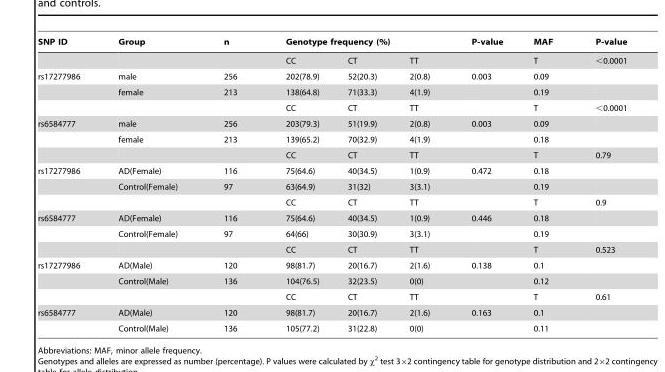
<table><thead><tr><td rowspan="2">SNP ID</td><td rowspan="2">Group</td><td rowspan="2">n</td><td colspan="3">Genotype frequency (%)</td><td rowspan="2">P-value</td><td rowspan="2">MAF T</td><td rowspan="2">P-value &lt;0.0001</td></tr><tr><td>CC</td><td>CT</td><td>TT</td></tr></thead><tbody><tr><td rowspan="3">rs17277986</td><td>male</td><td>256</td><td>202(78.9)</td><td>52(20.3)</td><td>2(0.8)</td><td>0.003</td><td>0.09</td><td></td></tr><tr><td>female</td><td>213</td><td>138(64.8)</td><td>71(33.3)</td><td>4(1.9)</td><td></td><td>0.19</td><td></td></tr><tr><td></td><td></td><td>CC</td><td>CT</td><td>TT</td><td></td><td>T</td><td>&lt;0.0001</td></tr><tr><td rowspan="3">rs6584777</td><td>male</td><td>256</td><td>203(79.3)</td><td>51(19.9)</td><td>2(0.8)</td><td>0.003</td><td>0.09</td><td></td></tr><tr><td>female</td><td>213</td><td>139(65.2)</td><td>70(32.9)</td><td>4(1.9)</td><td></td><td>0.18</td><td></td></tr><tr><td></td><td></td><td>CC</td><td>CT</td><td>TT</td><td></td><td>T</td><td>0.79</td></tr><tr><td rowspan="3">rs17277986</td><td>AD(Female)</td><td>116</td><td>75(64.6)</td><td>40(34.5)</td><td>1(0.9)</td><td>0.472</td><td>0.18</td><td></td></tr><tr><td>Control(Female)</td><td>97</td><td>63(64.9)</td><td>31(32)</td><td>3(3.1)</td><td></td><td>0.19</td><td></td></tr><tr><td></td><td></td><td>CC</td><td>CT</td><td>TT</td><td></td><td>T</td><td>0.9</td></tr><tr><td rowspan="3">rs6584777</td><td>AD(Female)</td><td>116</td><td>75(64.6)</td><td>40(34.5)</td><td>1(0.9)</td><td>0.446</td><td>0.18</td><td></td></tr><tr><td>Control(Female)</td><td>97</td><td>64(66)</td><td>30(30.9)</td><td>3(3.1)</td><td></td><td>0.19</td><td></td></tr><tr><td></td><td></td><td>CC</td><td>CT</td><td>TT</td><td></td><td>T</td><td>0.523</td></tr><tr><td rowspan="3">rs17277986</td><td>AD(Male)</td><td>120</td><td>98(81.7)</td><td>20(16.7)</td><td>2(1.6)</td><td>0.138</td><td>0.1</td><td></td></tr><tr><td>Control(Male)</td><td>136</td><td>104(76.5)</td><td>32(23.5)</td><td>0(0)</td><td></td><td>0.12</td><td></td></tr><tr><td></td><td></td><td>CC</td><td>CT</td><td>TT</td><td></td><td>T</td><td>0.61</td></tr><tr><td rowspan="2">rs6584777</td><td>AD(Male)</td><td>120</td><td>98(81.7)</td><td>20(16.7)</td><td>2(1.6)</td><td>0.163</td><td>0.1</td><td></td></tr><tr><td>Control(Male)</td><td>136</td><td>105(77.2)</td><td>31(22.8)</td><td>0(0)</td><td></td><td>0.11</td><td></td></tr></tbody></table>